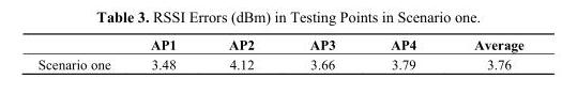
<table><thead><tr><td></td><td>AP1</td><td>AP2</td><td>AP3</td><td>AP4</td><td>Average</td></tr></thead><tbody><tr><td>Scenario one</td><td>3.48</td><td>4.12</td><td>3.66</td><td>3.79</td><td>3.76</td></tr></tbody></table>